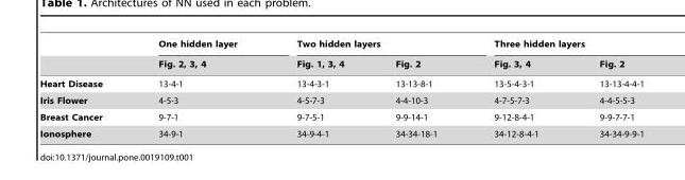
<table><thead><tr><td rowspan="2"></td><td rowspan="2">One hidden layer Fig. 2, 3, 4</td><td colspan="2">Two hidden layers</td><td colspan="2">Three hidden layers</td></tr><tr><td>Fig. 1, 3, 4</td><td>Fig. 2</td><td>Fig. 3, 4</td><td>Fig. 2</td></tr></thead><tbody><tr><td>Heart Disease</td><td>13-4-1</td><td>13-4-3-1</td><td>13-13-8-1</td><td>13-5-4-3-1</td><td>13-13-4-4-1</td></tr><tr><td>Iris Flower</td><td>4-5-3</td><td>4-5-7-3</td><td>4-4-10-3</td><td>4-7-5-7-3</td><td>4-4-5-5-3</td></tr><tr><td>Breast Cancer</td><td>9-7-1</td><td>9-7-5-1</td><td>9-9-14-1</td><td>9-12-8-4-1</td><td>9-9-7-7-1</td></tr><tr><td>Ionosphere</td><td>34-9-1</td><td>34-9-4-1</td><td>34-34-18-1</td><td>34-12-8-4-1</td><td>34-34-9-9-1</td></tr></tbody></table>